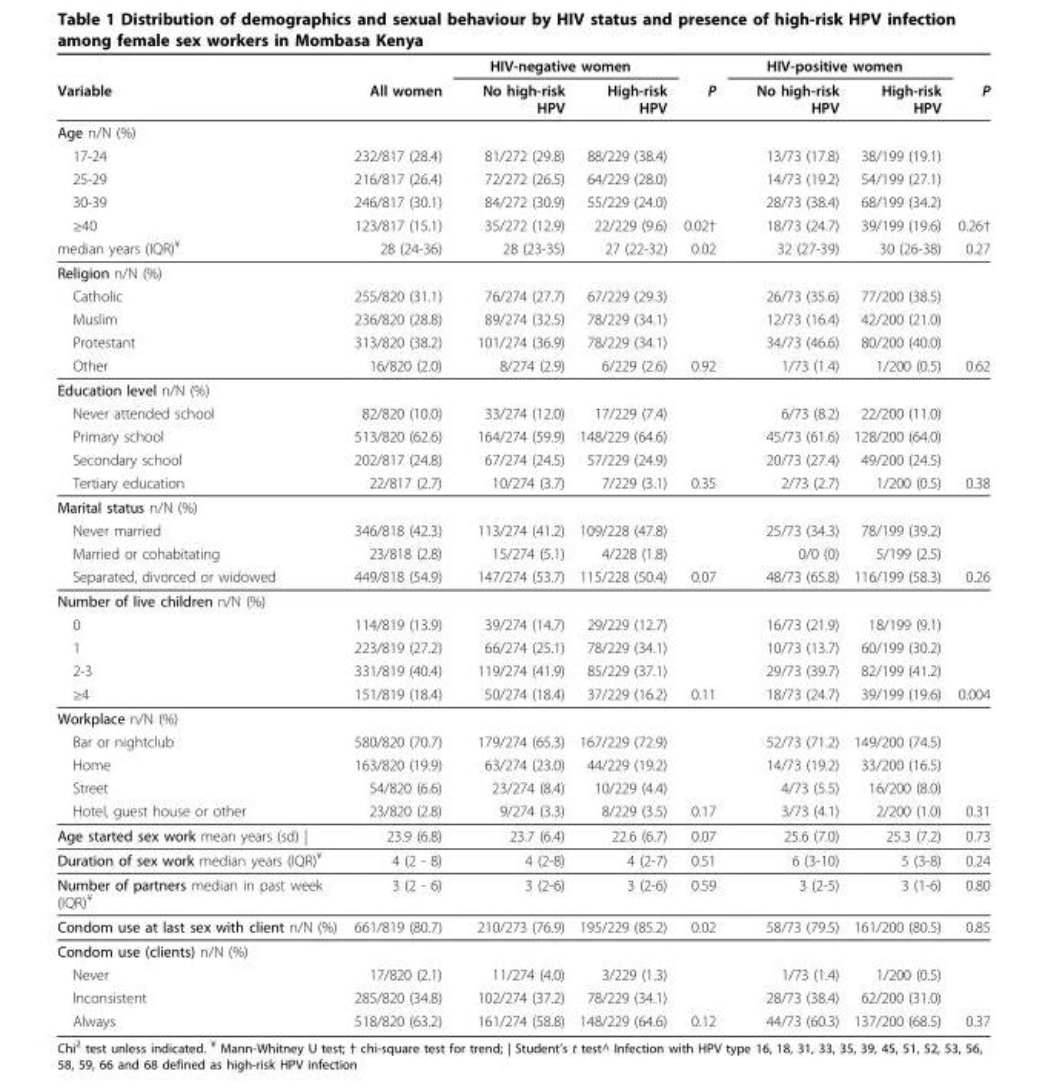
<table><thead><tr><td rowspan="2">Variable</td><td rowspan="2">All women</td><td colspan="2">HIV-negative women</td><td rowspan="2">P</td><td colspan="2">HIV-positive women</td><td rowspan="2">P</td></tr><tr><td>No high-risk HPV</td><td>High-risk HPV</td><td>No high-risk HPV</td><td>High-risk HPV</td></tr></thead><tbody><tr><td colspan="8">Age n/N (%)</td></tr><tr><td>17-24</td><td>232/817 (28.4)</td><td>81/272 (29.8)</td><td>88/229 (38.4)</td><td></td><td>13/73 (17.8)</td><td>38/199 (19.1)</td><td></td></tr><tr><td>25-29</td><td>216/817 (26.4)</td><td>72/272 (26.5)</td><td>64/229 (28.0)</td><td></td><td>14/73 (19.2)</td><td>54/199 (27.1)</td><td></td></tr><tr><td>30-39</td><td>246/817 (30.1)</td><td>84/272 (30.9)</td><td>55/229 (24.0)</td><td></td><td>28/73 (38.4)</td><td>68/199 (34.2)</td><td></td></tr><tr><td>≥40</td><td>123/817 (15.1)</td><td>35/272 (12.9)</td><td>22/229 (9.6)</td><td>0.02†</td><td>18/73 (24.7)</td><td>39/199 (19.6)</td><td>0.26†</td></tr><tr><td>median years (IQR)<sup>¥</sup></td><td>28 (24-36)</td><td>28 (23-35)</td><td>27 (22-32)</td><td>0.02</td><td>32 (27-39)</td><td>30 (26-38)</td><td>0.27</td></tr><tr><td colspan="8">Religion n/N (%)</td></tr><tr><td>Catholic</td><td>255/820 (31.1)</td><td>76/274 (27.7)</td><td>67/229 (29.3)</td><td></td><td>26/73 (35.6)</td><td>77/200 (38.5)</td><td></td></tr><tr><td>Muslim</td><td>236/820 (28.8)</td><td>89/274 (32.5)</td><td>78/229 (34.1)</td><td></td><td>12/73 (16.4)</td><td>42/200 (21.0)</td><td></td></tr><tr><td>Protestant</td><td>313/820 (38.2)</td><td>101/274 (36.9)</td><td>78/229 (34.1)</td><td></td><td>34/73 (46.6)</td><td>80/200 (40.0)</td><td></td></tr><tr><td>Other</td><td>16/820 (2.0)</td><td>8/274 (2.9)</td><td>6/229 (2.6)</td><td>0.92</td><td>1/73 (1.4)</td><td>1/200 (0.5)</td><td>0.62</td></tr><tr><td colspan="8">Education level n/N (%)</td></tr><tr><td>Never attended school</td><td>82/820 (10.0)</td><td>33/274 (12.0)</td><td>17/229 (7.4)</td><td></td><td>6/73 (8.2)</td><td>22/200 (11.0)</td><td></td></tr><tr><td>Primary school</td><td>513/820 (62.6)</td><td>164/274 (59.9)</td><td>148/229 (64.6)</td><td></td><td>45/73 (61.6)</td><td>128/200 (64.0)</td><td></td></tr><tr><td>Secondary school</td><td>202/817 (24.8)</td><td>67/274 (24.5)</td><td>57/229 (24.9)</td><td></td><td>20/73 (27.4)</td><td>49/200 (24.5)</td><td></td></tr><tr><td>Tertiary education</td><td>22/817 (2.7)</td><td>10/274 (3.7)</td><td>7/229 (3.1)</td><td>0.35</td><td>2/73 (2.7)</td><td>1/200 (0.5)</td><td>0.38</td></tr><tr><td colspan="8">Marital status n/N (%)</td></tr><tr><td>Never married</td><td>346/818 (42.3)</td><td>113/274 (41.2)</td><td>109/228 (47.8)</td><td></td><td>25/73 (34.3)</td><td>78/199 (39.2)</td><td></td></tr><tr><td>Married or cohabitating</td><td>23/818 (2.8)</td><td>15/274 (5.1)</td><td>4/228 (1.8)</td><td></td><td>0/0 (0)</td><td>5/199 (2.5)</td><td></td></tr><tr><td>Separated, divorced or widowed</td><td>449/818 (54.9)</td><td>147/274 (53.7)</td><td>115/228 (50.4)</td><td>0.07</td><td>48/73 (65.8)</td><td>116/199 (58.3)</td><td>0.26</td></tr><tr><td colspan="8">Number of live children n/N (%)</td></tr><tr><td>0</td><td>114/819 (13.9)</td><td>39/274 (14.7)</td><td>29/229 (12.7)</td><td></td><td>16/73 (21.9)</td><td>18/199 (9.1)</td><td></td></tr><tr><td>1</td><td>223/819 (27.2)</td><td>66/274 (25.1)</td><td>78/229 (34.1)</td><td></td><td>10/73 (13.7)</td><td>60/199 (30.2)</td><td></td></tr><tr><td>2-3</td><td>331/819 (40.4)</td><td>119/274 (41.9)</td><td>85/229 (37.1)</td><td></td><td>29/73 (39.7)</td><td>82/199 (41.2)</td><td></td></tr><tr><td>≥4</td><td>151/819 (18.4)</td><td>50/274 (18.4)</td><td>37/229 (16.2)</td><td>0.11</td><td>18/73 (24.7)</td><td>39/199 (19.6)</td><td>0.004</td></tr><tr><td colspan="8">Workplace n/N (%)</td></tr><tr><td>Bar or nightclub</td><td>580/820 (70.7)</td><td>179/274 (65.3)</td><td>167/229 (72.9)</td><td></td><td>52/73 (71.2)</td><td>149/200 (74.5)</td><td></td></tr><tr><td>Home</td><td>163/820 (19.9)</td><td>63/274 (23.0)</td><td>44/229 (19.2)</td><td></td><td>14/73 (19.2)</td><td>33/200 (16.5)</td><td></td></tr><tr><td>Street</td><td>54/820 (6.6)</td><td>23/274 (8.4)</td><td>10/229 (4.4)</td><td></td><td>4/73 (5.5)</td><td>16/200 (8.0)</td><td></td></tr><tr><td>Hotel, guest house or other</td><td>23/820 (2.8)</td><td>9/274 (3.3)</td><td>8/229 (3.5)</td><td>0.17</td><td>3/73 (4.1)</td><td>2/200 (1.0)</td><td>0.31</td></tr><tr><td>Age started sex work mean years (sd) |</td><td>23.9 (6.8)</td><td>23.7 (6.4)</td><td>22.6 (6.7)</td><td>0.07</td><td>25.6 (7.0)</td><td>25.3 (7.2)</td><td>0.73</td></tr><tr><td>Duration of sex work median years (IQR)<sup>¥</sup></td><td>4 (2 - 8)</td><td>4 (2-8)</td><td>4 (2-7)</td><td>0.51</td><td>6 (3-10)</td><td>5 (3-8)</td><td>0.24</td></tr><tr><td>Number of partners median in past week (IQR)<sup>¥</sup></td><td>3 (2 - 6)</td><td>3 (2-6)</td><td>3 (2-6)</td><td>0.59</td><td>3 (2-5)</td><td>3 (1-6)</td><td>0.80</td></tr><tr><td>Condom use at last sex with client n/N (%)</td><td>661/819 (80.7)</td><td>210/273 (76.9)</td><td>195/229 (85.2)</td><td>0.02</td><td>58/73 (79.5)</td><td>161/200 (80.5)</td><td>0.85</td></tr><tr><td colspan="8">Condom use (clients) n/N (%)</td></tr><tr><td>Never</td><td>17/820 (2.1)</td><td>11/274 (4.0)</td><td>3/229 (1.3)</td><td></td><td>1/73 (1.4)</td><td>1/200 (0.5)</td><td></td></tr><tr><td>Inconsistent</td><td>285/820 (34.8)</td><td>102/274 (37.2)</td><td>78/229 (34.1)</td><td></td><td>28/73 (38.4)</td><td>62/200 (31.0)</td><td></td></tr><tr><td>Always</td><td>518/820 (63.2)</td><td>161/274 (58.8)</td><td>148/229 (64.6)</td><td>0.12</td><td>44/73 (60.3)</td><td>137/200 (68.5)</td><td>0.37</td></tr></tbody></table>